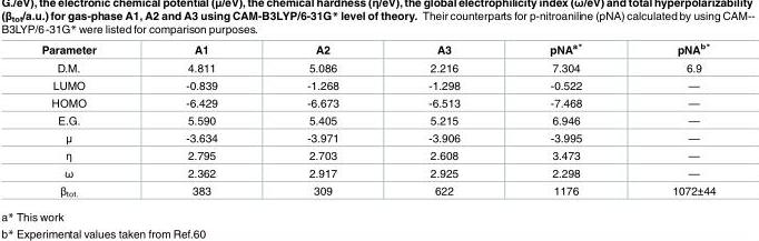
<table><thead><tr><td>Parameter</td><td>A1</td><td>A2</td><td>A3</td><td>pNA<sup>a*</sup></td><td>pNA<sup>b*</sup></td></tr></thead><tbody><tr><td>D.M.</td><td>4.811</td><td>5.086</td><td>2.216</td><td>7.304</td><td>6.9</td></tr><tr><td>LUMO</td><td>-0.839</td><td>-1.268</td><td>-1.298</td><td>-0.522</td><td>—</td></tr><tr><td>HOMO</td><td>-6.429</td><td>-6.673</td><td>-6.513</td><td>-7.468</td><td>—</td></tr><tr><td>E.G.</td><td>5.590</td><td>5.405</td><td>5.215</td><td>6.946</td><td>—</td></tr><tr><td>μ</td><td>-3.634</td><td>-3.971</td><td>-3.906</td><td>-3.995</td><td>—</td></tr><tr><td>η</td><td>2.795</td><td>2.703</td><td>2.608</td><td>3.473</td><td>—</td></tr><tr><td>ω</td><td>2.362</td><td>2.917</td><td>2.925</td><td>2.298</td><td>—</td></tr><tr><td>β<sub>tot.</sub></td><td>383</td><td>309</td><td>622</td><td>1176</td><td>1072±44</td></tr></tbody></table>